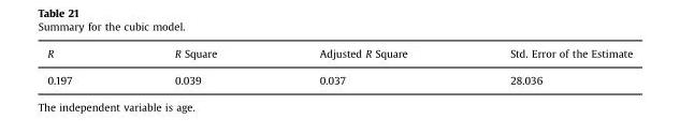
<table><thead><tr><td>R</td><td>R Square</td><td>Adjusted R Square</td><td>Std. Error of the Estimate</td></tr></thead><tbody><tr><td>0.197</td><td>0.039</td><td>0.037</td><td>28.036</td></tr></tbody></table>